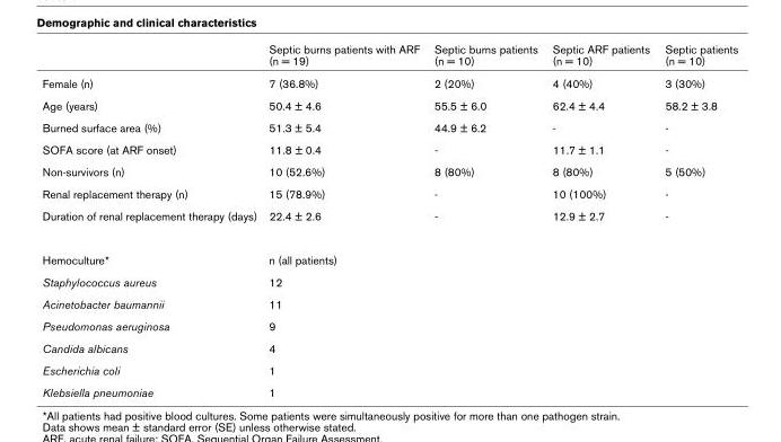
<table><thead><tr><td></td><td>Septic burns patients with ARF (n = 19)</td><td>Septic burns patients (n = 10)</td><td>Septic ARF patients (n = 10)</td><td>Septic patients (n = 10)</td></tr></thead><tbody><tr><td>Female (n)</td><td>7 (36.8%)</td><td>2 (20%)</td><td>4 (40%)</td><td>3 (30%)</td></tr><tr><td>Age (years)</td><td>50.4 ± 4.6</td><td>55.5 ± 6.0</td><td>62.4 ± 4.4</td><td>58.2 ± 3.8</td></tr><tr><td>Burned surface area (%)</td><td>51.3 ± 5.4</td><td>44.9 ± 6.2</td><td>-</td><td>-</td></tr><tr><td>SOFA score (at ARF onset)</td><td>11.8 ± 0.4</td><td>-</td><td>11.7 ± 1.1</td><td>-</td></tr><tr><td>Non-survivors (n)</td><td>10 (52.6%)</td><td>8 (80%)</td><td>8 (80%)</td><td>5 (50%)</td></tr><tr><td>Renal replacement therapy (n)</td><td>15 (78.9%)</td><td>-</td><td>10 (100%)</td><td>-</td></tr><tr><td>Duration of renal replacement therapy (days)</td><td>22.4 ± 2.6</td><td>-</td><td>12.9 ± 2.7</td><td>-</td></tr><tr><td>Hemoculture*</td><td>n (all patients)</td><td></td><td></td><td></td></tr><tr><td>Staphylococcus aureus</td><td>12</td><td></td><td></td><td></td></tr><tr><td>Acinetobacter baumannii</td><td>11</td><td></td><td></td><td></td></tr><tr><td>Pseudomonas aeruginosa</td><td>9</td><td></td><td></td><td></td></tr><tr><td>Candida albicans</td><td>4</td><td></td><td></td><td></td></tr><tr><td>Escherichia coli</td><td>1</td><td></td><td></td><td></td></tr><tr><td>Klebsiella pneumoniae</td><td>1</td><td></td><td></td><td></td></tr></tbody></table>